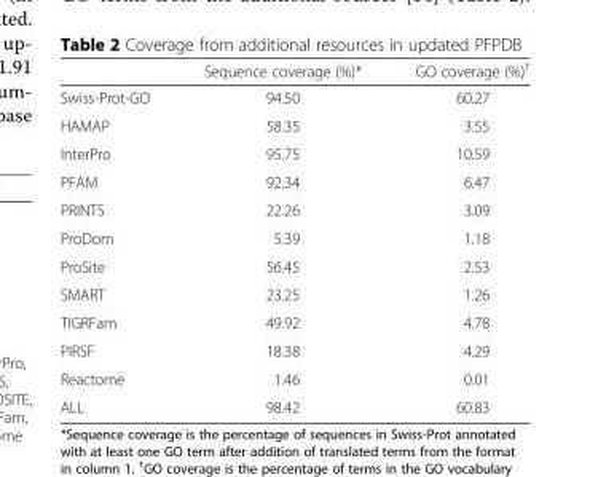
<table><thead><tr><td></td><td>Sequence coverage (%)*</td><td>GO coverage (%)<sup>†</sup></td></tr></thead><tbody><tr><td>Swiss-Prot-GO</td><td>94.50</td><td>60.27</td></tr><tr><td>HAMAP</td><td>58.35</td><td>3.55</td></tr><tr><td>InterPro</td><td>95.75</td><td>10.59</td></tr><tr><td>PFAM</td><td>92.34</td><td>6.47</td></tr><tr><td>PRINTS</td><td>22.26</td><td>3.09</td></tr><tr><td>ProDom</td><td>5.39</td><td>1.18</td></tr><tr><td>ProSite</td><td>56.45</td><td>2.53</td></tr><tr><td>SMART</td><td>23.25</td><td>1.26</td></tr><tr><td>TIGRFam</td><td>49.92</td><td>4.78</td></tr><tr><td>PIRSF</td><td>18.38</td><td>4.29</td></tr><tr><td>Reactome</td><td>1.46</td><td>0.01</td></tr><tr><td>ALL</td><td>98.42</td><td>60.83</td></tr></tbody></table>